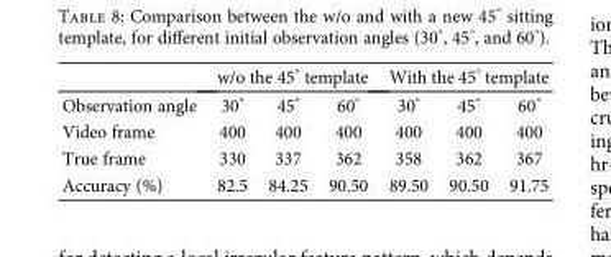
<table><thead><tr><td rowspan="2">Observation angle</td><td colspan="3">w/o the 45° template</td><td colspan="3">With the 45° template</td></tr><tr><td>30°</td><td>45°</td><td>60°</td><td>30°</td><td>45°</td><td>60°</td></tr></thead><tbody><tr><td>Video frame</td><td>400</td><td>400</td><td>400</td><td>400</td><td>400</td><td>400</td></tr><tr><td>True frame</td><td>330</td><td>337</td><td>362</td><td>358</td><td>362</td><td>367</td></tr><tr><td>Accuracy (%)</td><td>82.5</td><td>84.25</td><td>90.50</td><td>89.50</td><td>90.50</td><td>91.75</td></tr></tbody></table>